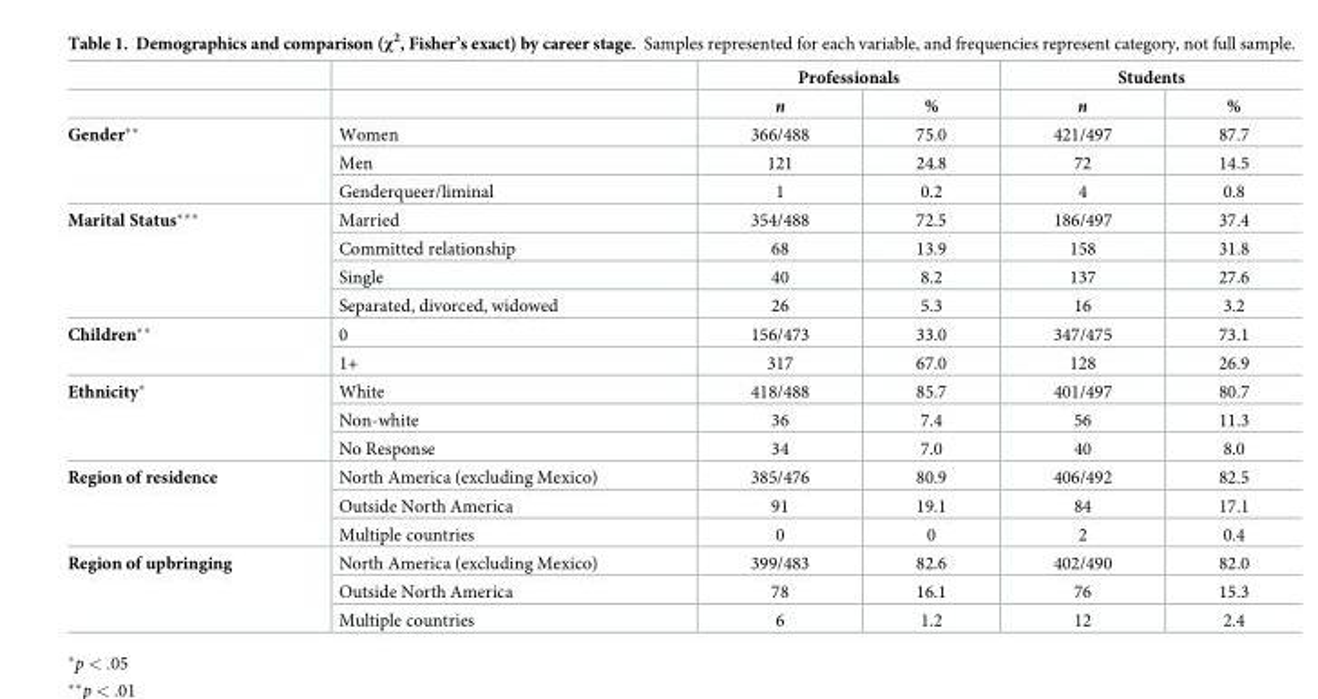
<table><thead><tr><td rowspan="2"></td><td rowspan="2"></td><td colspan="2">Professionals</td><td colspan="2">Students</td></tr><tr><td>n</td><td>%</td><td>n</td><td>%</td></tr></thead><tbody><tr><td rowspan="3">Gender**</td><td>Women</td><td>366/488</td><td>75.0</td><td>421/497</td><td>87.7</td></tr><tr><td>Men</td><td>121</td><td>24.8</td><td>72</td><td>14.5</td></tr><tr><td>Genderqueer/liminal</td><td>1</td><td>0.2</td><td>4</td><td>0.8</td></tr><tr><td rowspan="4">Marital Status***</td><td>Married</td><td>354/488</td><td>72.5</td><td>186/497</td><td>37.4</td></tr><tr><td>Committed relationship</td><td>68</td><td>13.9</td><td>158</td><td>31.8</td></tr><tr><td>Single</td><td>40</td><td>8.2</td><td>137</td><td>27.6</td></tr><tr><td>Separated, divorced, widowed</td><td>26</td><td>5.3</td><td>16</td><td>3.2</td></tr><tr><td rowspan="2">Children**</td><td>0</td><td>156/473</td><td>33.0</td><td>347/475</td><td>73.1</td></tr><tr><td>1+</td><td>317</td><td>67.0</td><td>128</td><td>26.9</td></tr><tr><td rowspan="3">Ethnicity*</td><td>White</td><td>418/488</td><td>85.7</td><td>401/497</td><td>80.7</td></tr><tr><td>Non-white</td><td>36</td><td>7.4</td><td>56</td><td>11.3</td></tr><tr><td>No Response</td><td>34</td><td>7.0</td><td>40</td><td>8.0</td></tr><tr><td rowspan="3">Region of residence</td><td>North America (excluding Mexico)</td><td>385/476</td><td>80.9</td><td>406/492</td><td>82.5</td></tr><tr><td>Outside North America</td><td>91</td><td>19.1</td><td>84</td><td>17.1</td></tr><tr><td>Multiple countries</td><td>0</td><td>0</td><td>2</td><td>0.4</td></tr><tr><td rowspan="3">Region of upbringing</td><td>North America (excluding Mexico)</td><td>399/483</td><td>82.6</td><td>402/490</td><td>82.0</td></tr><tr><td>Outside North America</td><td>78</td><td>16.1</td><td>76</td><td>15.3</td></tr><tr><td>Multiple countries</td><td>6</td><td>1.2</td><td>12</td><td>2.4</td></tr></tbody></table>